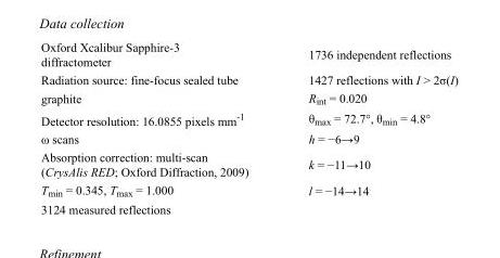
<table><tbody><tr><td>Oxford Xcalibur Sapphire-3 diffractometer</td><td>1736 independent reflections</td></tr><tr><td>Radiation source: fine-focus sealed tube</td><td>1427 reflections with I &gt; 2σ(I)</td></tr><tr><td>graphite</td><td>R<sub>int</sub> = 0.020</td></tr><tr><td>Detector resolution: 16.0855 pixels mm<sup>-1</sup></td><td>θ<sub>max</sub> = 72.7°, θ<sub>min</sub> = 4.8°</td></tr><tr><td>ω scans</td><td>h = −6→9</td></tr><tr><td>Absorption correction: multi-scan (CrysAlis RED; Oxford Diffraction, 2009)</td><td>k = −11→10</td></tr><tr><td>T<sub>min</sub> = 0.345, T<sub>max</sub> = 1.000</td><td>l = −14→14</td></tr><tr><td>3124 measured reflections</td><td></td></tr></tbody></table>